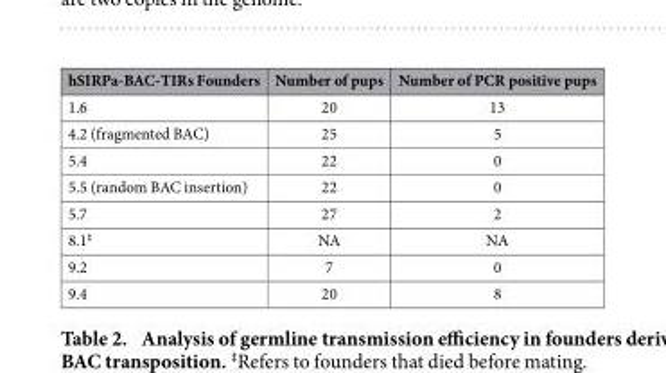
<table><thead><tr><td>hSIRPa-BAC-TIRs Founders</td><td>Number of pups</td><td>Number of PCR positive pups</td></tr></thead><tbody><tr><td>1.6</td><td>20</td><td>13</td></tr><tr><td>4.2 (fragmented BAC)</td><td>25</td><td>5</td></tr><tr><td>5.4</td><td>22</td><td>0</td></tr><tr><td>5.5 (random BAC insertion)</td><td>22</td><td>0</td></tr><tr><td>5.7</td><td>27</td><td>2</td></tr><tr><td>8.1‡</td><td>NA</td><td>NA</td></tr><tr><td>9.2</td><td>7</td><td>0</td></tr><tr><td>9.4</td><td>20</td><td>8</td></tr></tbody></table>